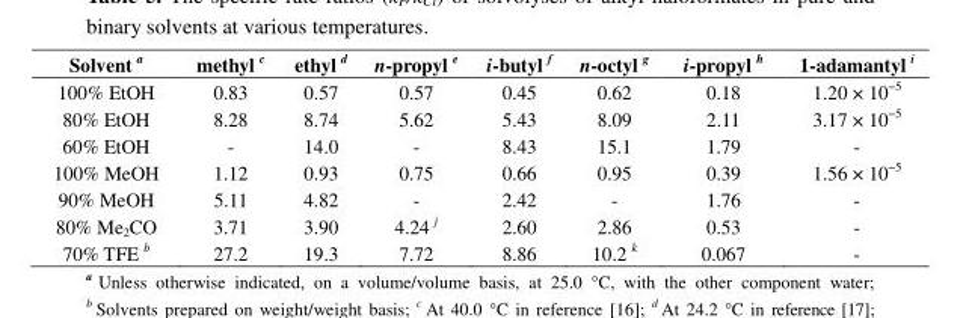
<table><thead><tr><td>Solvent a</td><td>methyl c</td><td>ethyl d</td><td>n-propyl e</td><td>i-butyl f</td><td>n-octyl g</td><td>i-propyl h</td><td>1-adamantyl i</td></tr></thead><tbody><tr><td>100% EtOH</td><td>0.83</td><td>0.57</td><td>0.57</td><td>0.45</td><td>0.62</td><td>0.18</td><td>1.20 × 10<sup>−5</sup></td></tr><tr><td>80% EtOH</td><td>8.28</td><td>8.74</td><td>5.62</td><td>5.43</td><td>8.09</td><td>2.11</td><td>3.17 × 10<sup>−5</sup></td></tr><tr><td>60% EtOH</td><td>-</td><td>14.0</td><td>-</td><td>8.43</td><td>15.1</td><td>1.79</td><td>-</td></tr><tr><td>100% MeOH</td><td>1.12</td><td>0.93</td><td>0.75</td><td>0.66</td><td>0.95</td><td>0.39</td><td>1.56 × 10<sup>−5</sup></td></tr><tr><td>90% MeOH</td><td>5.11</td><td>4.82</td><td>-</td><td>2.42</td><td>-</td><td>1.76</td><td>-</td></tr><tr><td>80% Me<sub>2</sub>CO</td><td>3.71</td><td>3.90</td><td>4.24 j</td><td>2.60</td><td>2.86</td><td>0.53</td><td>-</td></tr><tr><td>70% TFE b</td><td>27.2</td><td>19.3</td><td>7.72</td><td>8.86</td><td>10.2 k</td><td>0.067</td><td>-</td></tr></tbody></table>